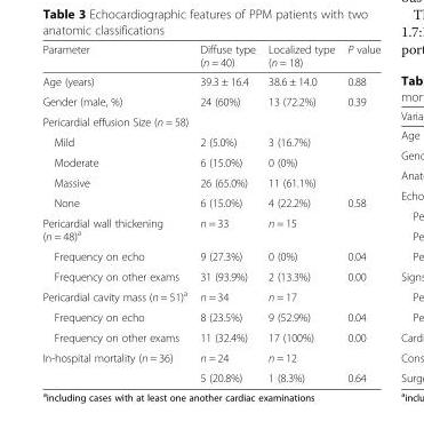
<table><thead><tr><td>Parameter</td><td>Diffuse type (n = 40)</td><td>Localized type (n = 18)</td><td>P value</td></tr></thead><tbody><tr><td>Age (years)</td><td>39.3 ± 16.4</td><td>38.6 ± 14.0</td><td>0.88</td></tr><tr><td>Gender (male, %)</td><td>24 (60%)</td><td>13 (72.2%)</td><td>0.39</td></tr><tr><td colspan="4">Pericardial effusion Size (n = 58)</td></tr><tr><td>Mild</td><td>2 (5.0%)</td><td>3 (16.7%)</td><td></td></tr><tr><td>Moderate</td><td>6 (15.0%)</td><td>0 (0%)</td><td></td></tr><tr><td>Massive</td><td>26 (65.0%)</td><td>11 (61.1%)</td><td></td></tr><tr><td>None</td><td>6 (15.0%)</td><td>4 (22.2%)</td><td>0.58</td></tr><tr><td>Pericardial wall thickening (n = 48)<sup>a</sup></td><td>n = 33</td><td>n = 15</td><td></td></tr><tr><td>Frequency on echo</td><td>9 (27.3%)</td><td>0 (0%)</td><td>0.04</td></tr><tr><td>Frequency on other exams</td><td>31 (93.9%)</td><td>2 (13.3%)</td><td>0.00</td></tr><tr><td>Pericardial cavity mass (n = 51)<sup>a</sup></td><td>n = 34</td><td>n = 17</td><td></td></tr><tr><td>Frequency on echo</td><td>8 (23.5%)</td><td>9 (52.9%)</td><td>0.04</td></tr><tr><td>Frequency on other exams</td><td>11 (32.4%)</td><td>17 (100%)</td><td>0.00</td></tr><tr><td rowspan="2">In-hospital mortality (n = 36)</td><td>n = 24</td><td>n = 12</td><td></td></tr><tr><td>5 (20.8%)</td><td>1 (8.3%)</td><td>0.64</td></tr></tbody></table>